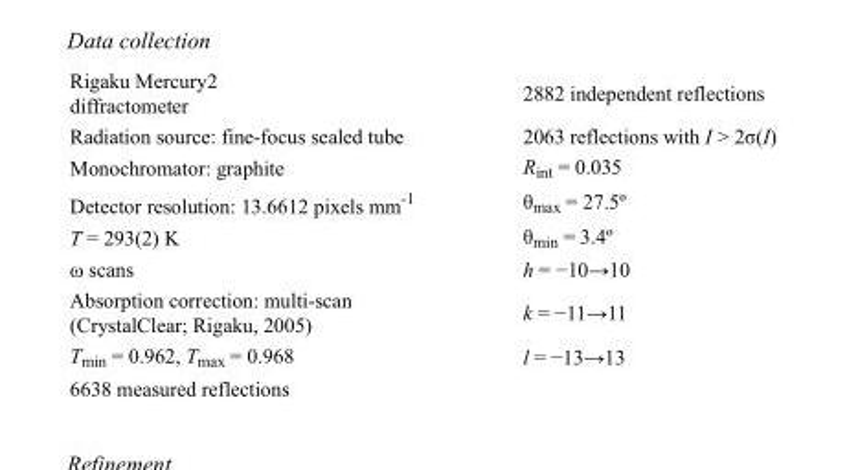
<table><tbody><tr><td>Rigaku Mercury2 diffractometer</td><td>2882 independent reflections</td></tr><tr><td>Radiation source: fine-focus sealed tube</td><td>2063 reflections with I &gt; 2σ(I)</td></tr><tr><td>Monochromator: graphite</td><td>R<sub>int</sub> = 0.035</td></tr><tr><td>Detector resolution: 13.6612 pixels mm<sup>-1</sup></td><td>θ<sub>max</sub> = 27.5º</td></tr><tr><td>T = 293(2) K</td><td>θ<sub>min</sub> = 3.4º</td></tr><tr><td>ω scans</td><td>h = −10→10</td></tr><tr><td>Absorption correction: multi-scan (CrystalClear; Rigaku, 2005)</td><td>k = −11→11</td></tr><tr><td>T<sub>min</sub> = 0.962, T<sub>max</sub> = 0.968</td><td>l = −13→13</td></tr><tr><td>6638 measured reflections</td><td></td></tr></tbody></table>